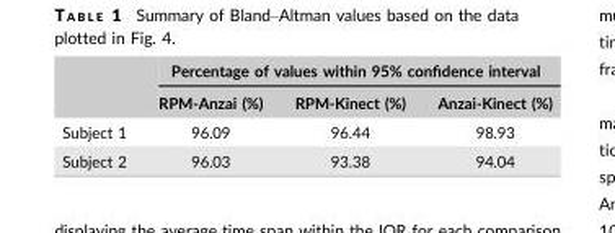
<table><thead><tr><td rowspan="2"></td><td colspan="3">Percentage of values within 95% confidence interval</td></tr><tr><td>RPM-Anzai (%)</td><td>RPM-Kinect (%)</td><td>Anzai-Kinect (%)</td></tr></thead><tbody><tr><td>Subject 1</td><td>96.09</td><td>96.44</td><td>98.93</td></tr><tr><td>Subject 2</td><td>96.03</td><td>93.38</td><td>94.04</td></tr></tbody></table>